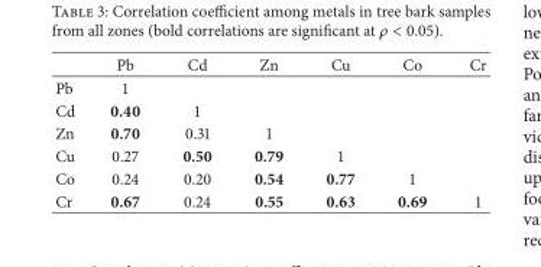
<table><thead><tr><td></td><td>Pb</td><td>Cd</td><td>Zn</td><td>Cu</td><td>Co</td><td>Cr</td></tr></thead><tbody><tr><td>Pb</td><td>1</td><td></td><td></td><td></td><td></td><td></td></tr><tr><td>Cd</td><td>0.40</td><td>1</td><td></td><td></td><td></td><td></td></tr><tr><td>Zn</td><td>0.70</td><td>0.31</td><td>1</td><td></td><td></td><td></td></tr><tr><td>Cu</td><td>0.27</td><td>0.50</td><td>0.79</td><td>1</td><td></td><td></td></tr><tr><td>Co</td><td>0.24</td><td>0.20</td><td>0.54</td><td>0.77</td><td>1</td><td></td></tr><tr><td>Cr</td><td>0.67</td><td>0.24</td><td>0.55</td><td>0.63</td><td>0.69</td><td>1</td></tr></tbody></table>